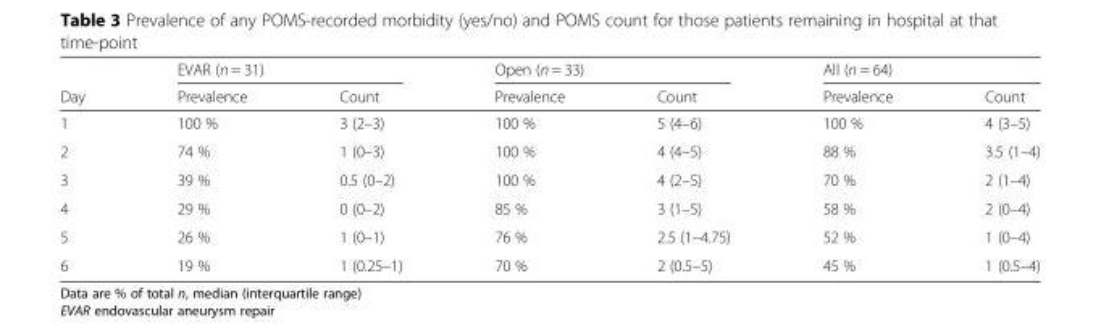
<table><thead><tr><td rowspan="2">Day</td><td colspan="2">EVAR (n = 31)</td><td colspan="2">Open (n = 33)</td><td colspan="2">All (n = 64)</td></tr><tr><td>Prevalence</td><td>Count</td><td>Prevalence</td><td>Count</td><td>Prevalence</td><td>Count</td></tr></thead><tbody><tr><td>1</td><td>100 %</td><td>3 (2–3)</td><td>100 %</td><td>5 (4–6)</td><td>100 %</td><td>4 (3–5)</td></tr><tr><td>2</td><td>74 %</td><td>1 (0–3)</td><td>100 %</td><td>4 (4–5)</td><td>88 %</td><td>3.5 (1–4)</td></tr><tr><td>3</td><td>39 %</td><td>0.5 (0–2)</td><td>100 %</td><td>4 (2–5)</td><td>70 %</td><td>2 (1–4)</td></tr><tr><td>4</td><td>29 %</td><td>0 (0–2)</td><td>85 %</td><td>3 (1–5)</td><td>58 %</td><td>2 (0–4)</td></tr><tr><td>5</td><td>26 %</td><td>1 (0–1)</td><td>76 %</td><td>2.5 (1–4.75)</td><td>52 %</td><td>1 (0–4)</td></tr><tr><td>6</td><td>19 %</td><td>1 (0.25–1)</td><td>70 %</td><td>2 (0.5–5)</td><td>45 %</td><td>1 (0.5–4)</td></tr></tbody></table>